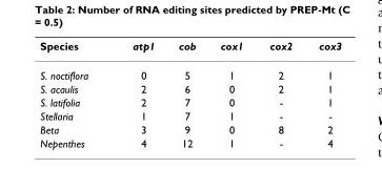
<table><thead><tr><td>Species</td><td>atp1</td><td>cob</td><td>cox1</td><td>cox2</td><td>cox3</td></tr></thead><tbody><tr><td>S. noctiflora</td><td>0</td><td>5</td><td>1</td><td>2</td><td>1</td></tr><tr><td>S. acaulis</td><td>2</td><td>6</td><td>0</td><td>2</td><td>1</td></tr><tr><td>S. latifolia</td><td>2</td><td>7</td><td>0</td><td>-</td><td>1</td></tr><tr><td>Stellaria</td><td>1</td><td>7</td><td>1</td><td>-</td><td>-</td></tr><tr><td>Beta</td><td>3</td><td>9</td><td>0</td><td>8</td><td>2</td></tr><tr><td>Nepenthes</td><td>4</td><td>12</td><td>1</td><td>-</td><td>4</td></tr></tbody></table>